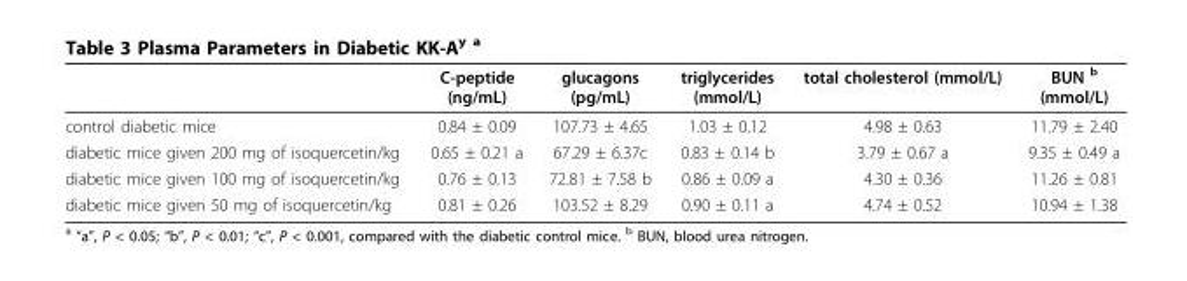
<table><thead><tr><td></td><td>C-peptide (ng/mL)</td><td>glucagons (pg/mL)</td><td>triglycerides (mmol/L)</td><td>total cholesterol (mmol/L)</td><td>BUN <sup>b</sup> (mmol/L)</td></tr></thead><tbody><tr><td>control diabetic mice</td><td>0.84 ± 0.09</td><td>107.73 ± 4.65</td><td>1.03 ± 0.12</td><td>4.98 ± 0.63</td><td>11.79 ± 2.40</td></tr><tr><td>diabetic mice given 200 mg of isoquercetin/kg</td><td>0.65 ± 0.21 a</td><td>67.29 ± 6.37c</td><td>0.83 ± 0.14 b</td><td>3.79 ± 0.67 a</td><td>9.35 ± 0.49 a</td></tr><tr><td>diabetic mice given 100 mg of isoquercetin/kg</td><td>0.76 ± 0.13</td><td>72.81 ± 7.58 b</td><td>0.86 ± 0.09 a</td><td>4.30 ± 0.36</td><td>11.26 ± 0.81</td></tr><tr><td>diabetic mice given 50 mg of isoquercetin/kg</td><td>0.81 ± 0.26</td><td>103.52 ± 8.29</td><td>0.90 ± 0.11 a</td><td>4.74 ± 0.52</td><td>10.94 ± 1.38</td></tr></tbody></table>